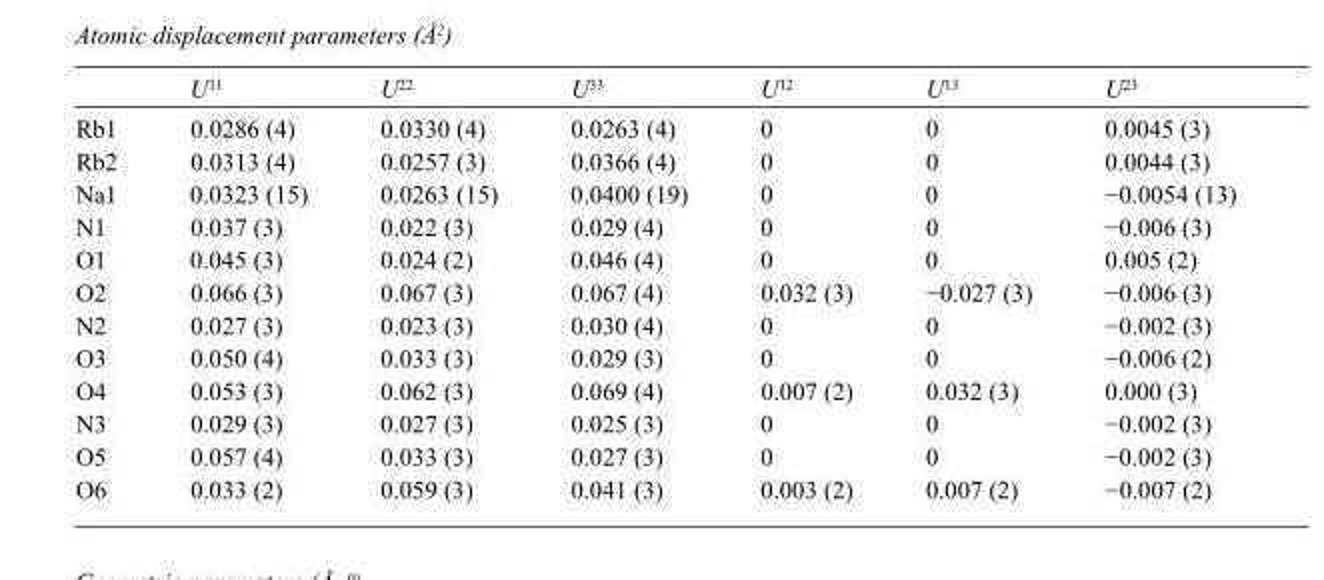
<table><thead><tr><td></td><td>U<sup>11</sup></td><td>U<sup>22</sup></td><td>U<sup>33</sup></td><td>U<sup>12</sup></td><td>U<sup>13</sup></td><td>U<sup>23</sup></td></tr></thead><tbody><tr><td>Rb1</td><td>0.0286 (4)</td><td>0.0330 (4)</td><td>0.0263 (4)</td><td>0</td><td>0</td><td>0.0045 (3)</td></tr><tr><td>Rb2</td><td>0.0313 (4)</td><td>0.0257 (3)</td><td>0.0366 (4)</td><td>0</td><td>0</td><td>0.0044 (3)</td></tr><tr><td>Na1</td><td>0.0323 (15)</td><td>0.0263 (15)</td><td>0.0400 (19)</td><td>0</td><td>0</td><td>−0.0054 (13)</td></tr><tr><td>N1</td><td>0.037 (3)</td><td>0.022 (3)</td><td>0.029 (4)</td><td>0</td><td>0</td><td>−0.006 (3)</td></tr><tr><td>O1</td><td>0.045 (3)</td><td>0.024 (2)</td><td>0.046 (4)</td><td>0</td><td>0</td><td>0.005 (2)</td></tr><tr><td>O2</td><td>0.066 (3)</td><td>0.067 (3)</td><td>0.067 (4)</td><td>0.032 (3)</td><td>−0.027 (3)</td><td>−0.006 (3)</td></tr><tr><td>N2</td><td>0.027 (3)</td><td>0.023 (3)</td><td>0.030 (4)</td><td>0</td><td>0</td><td>−0.002 (3)</td></tr><tr><td>O3</td><td>0.050 (4)</td><td>0.033 (3)</td><td>0.029 (3)</td><td>0</td><td>0</td><td>−0.006 (2)</td></tr><tr><td>O4</td><td>0.053 (3)</td><td>0.062 (3)</td><td>0.069 (4)</td><td>0.007 (2)</td><td>0.032 (3)</td><td>0.000 (3)</td></tr><tr><td>N3</td><td>0.029 (3)</td><td>0.027 (3)</td><td>0.025 (3)</td><td>0</td><td>0</td><td>−0.002 (3)</td></tr><tr><td>O5</td><td>0.057 (4)</td><td>0.033 (3)</td><td>0.027 (3)</td><td>0</td><td>0</td><td>−0.002 (3)</td></tr><tr><td>O6</td><td>0.033 (2)</td><td>0.059 (3)</td><td>0.041 (3)</td><td>0.003 (2)</td><td>0.007 (2)</td><td>−0.007 (2)</td></tr></tbody></table>